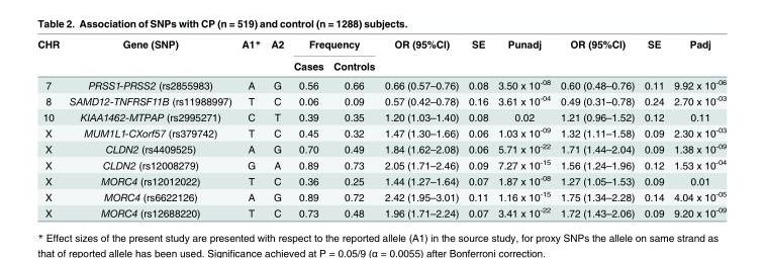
<table><thead><tr><td rowspan="2">CHR</td><td rowspan="2">Gene (SNP)</td><td rowspan="2">A1*</td><td rowspan="2">A2</td><td colspan="2">Frequency</td><td rowspan="2">OR (95%CI)</td><td rowspan="2">SE</td><td rowspan="2">Punadj</td><td rowspan="2">OR (95%CI)</td><td rowspan="2">SE</td><td rowspan="2">Padj</td></tr><tr><td>Cases</td><td>Controls</td></tr></thead><tbody><tr><td>7</td><td>PRSS1-PRSS2 (rs2855983)</td><td>A</td><td>G</td><td>0.56</td><td>0.66</td><td>0.66 (0.57–0.76)</td><td>0.08</td><td>3.50 x 10<sup>-08</sup></td><td>0.60 (0.48–0.76)</td><td>0.11</td><td>9.92 x 10<sup>-06</sup></td></tr><tr><td>8</td><td>SAMD12-TNFRSF11B (rs11988997)</td><td>T</td><td>C</td><td>0.06</td><td>0.09</td><td>0.57 (0.42–0.78)</td><td>0.16</td><td>3.61 x 10<sup>-04</sup></td><td>0.49 (0.31–0.78)</td><td>0.24</td><td>2.70 x 10<sup>-03</sup></td></tr><tr><td>10</td><td>KIAA1462-MTPAP (rs2995271)</td><td>C</td><td>T</td><td>0.39</td><td>0.35</td><td>1.20 (1.03–1.40)</td><td>0.08</td><td>0.02</td><td>1.21 (0.96–1.52)</td><td>0.12</td><td>0.11</td></tr><tr><td>X</td><td>MUM1L1-CXorf57 (rs379742)</td><td>T</td><td>C</td><td>0.45</td><td>0.32</td><td>1.47 (1.30–1.66)</td><td>0.06</td><td>1.03 x 10<sup>-09</sup></td><td>1.32 (1.11–1.58)</td><td>0.09</td><td>2.30 x 10<sup>-03</sup></td></tr><tr><td>X</td><td>CLDN2 (rs4409525)</td><td>A</td><td>G</td><td>0.70</td><td>0.49</td><td>1.84 (1.62–2.08)</td><td>0.06</td><td>5.71 x 10<sup>-22</sup></td><td>1.71 (1.44–2.04)</td><td>0.09</td><td>1.38 x 10<sup>-09</sup></td></tr><tr><td>X</td><td>CLDN2 (rs12008279)</td><td>G</td><td>A</td><td>0.89</td><td>0.73</td><td>2.05 (1.71–2.46)</td><td>0.09</td><td>7.27 x 10<sup>-15</sup></td><td>1.56 (1.24–1.96)</td><td>0.12</td><td>1.53 x 10<sup>-04</sup></td></tr><tr><td>X</td><td>MORC4 (rs12012022)</td><td>T</td><td>C</td><td>0.36</td><td>0.25</td><td>1.44 (1.27–1.64)</td><td>0.07</td><td>1.87 x 10<sup>-08</sup></td><td>1.27 (1.05–1.53)</td><td>0.09</td><td>0.01</td></tr><tr><td>X</td><td>MORC4 (rs6622126)</td><td>A</td><td>G</td><td>0.89</td><td>0.72</td><td>2.42 (1.95–3.01)</td><td>0.11</td><td>1.16 x 10<sup>-15</sup></td><td>1.75 (1.34–2.28)</td><td>0.14</td><td>4.04 x 10<sup>-05</sup></td></tr><tr><td>X</td><td>MORC4 (rs12688220)</td><td>T</td><td>C</td><td>0.73</td><td>0.48</td><td>1.96 (1.71–2.24)</td><td>0.07</td><td>3.41 x 10<sup>-22</sup></td><td>1.72 (1.43–2.06)</td><td>0.09</td><td>9.20 x 10<sup>-09</sup></td></tr></tbody></table>